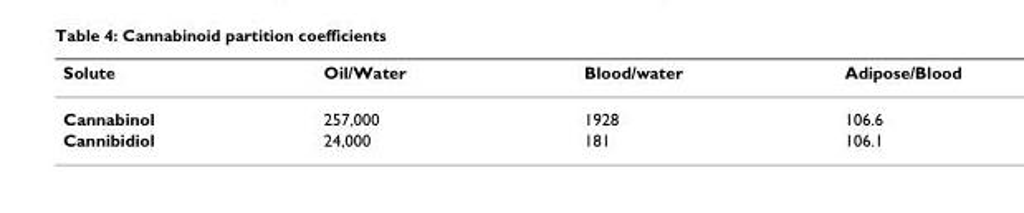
<table><thead><tr><td>Solute</td><td>Oil/Water</td><td>Blood/water</td><td>Adipose/Blood</td></tr></thead><tbody><tr><td>Cannabinol</td><td>257,000</td><td>1928</td><td>106.6</td></tr><tr><td>Cannibidiol</td><td>24,000</td><td>181</td><td>106.1</td></tr></tbody></table>